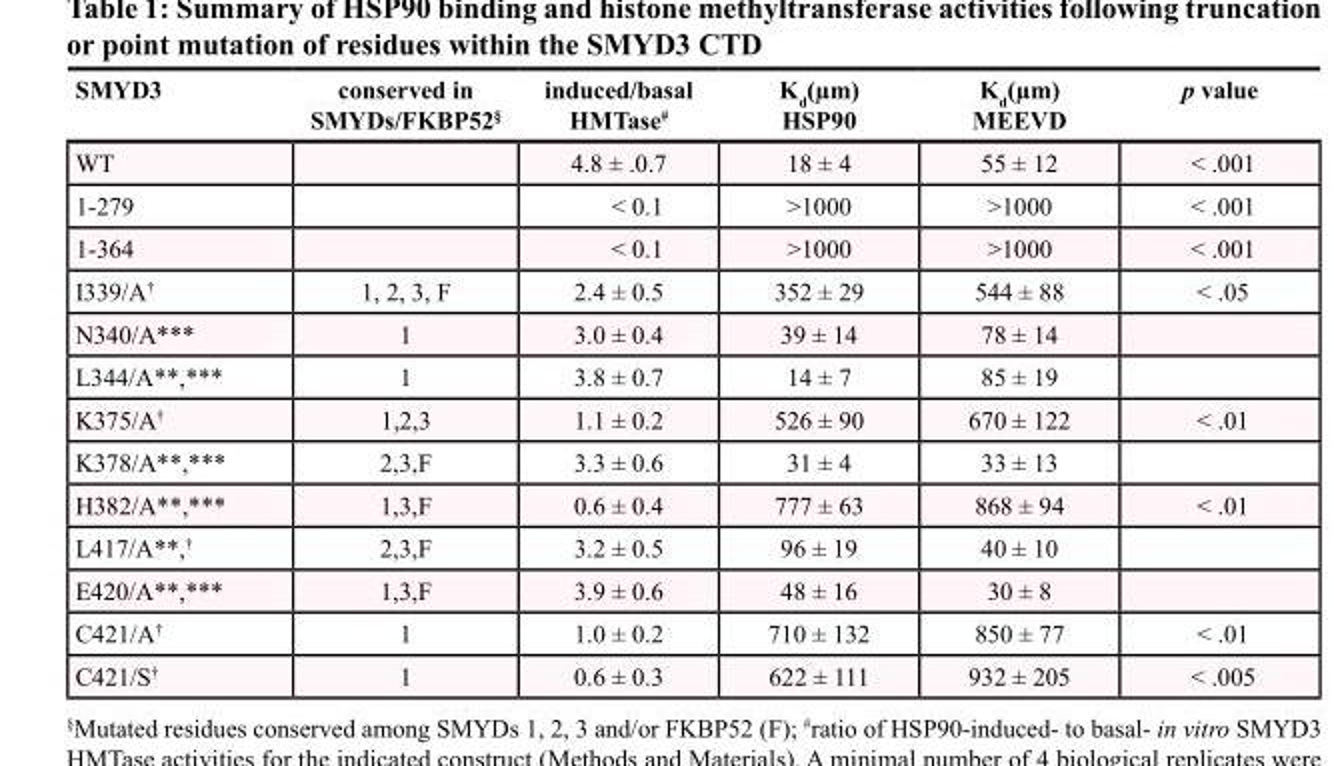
<table><thead><tr><td>SMYD3</td><td>conserved in SMYDs/FKBP52<sup>§</sup></td><td>induced/basal HMTase<sup>#</sup></td><td>K<sub>d</sub>(µm) HSP90</td><td>K<sub>d</sub>(µm) MEEVD</td><td>p value</td></tr></thead><tbody><tr><td>WT</td><td></td><td>4.8 ± .0.7</td><td>18 ± 4</td><td>55 ± 12</td><td>&lt; .001</td></tr><tr><td>1-279</td><td></td><td>&lt; 0.1</td><td>&gt;1000</td><td>&gt;1000</td><td>&lt; .001</td></tr><tr><td>1-364</td><td></td><td>&lt; 0.1</td><td>&gt;1000</td><td>&gt;1000</td><td>&lt; .001</td></tr><tr><td>I339/A<sup>†</sup></td><td>1, 2, 3, F</td><td>2.4 ± 0.5</td><td>352 ± 29</td><td>544 ± 88</td><td>&lt; .05</td></tr><tr><td>N340/A***</td><td>1</td><td>3.0 ± 0.4</td><td>39 ± 14</td><td>78 ± 14</td><td></td></tr><tr><td>L344/A**,***</td><td>1</td><td>3.8 ± 0.7</td><td>14 ± 7</td><td>85 ± 19</td><td></td></tr><tr><td>K375/A<sup>†</sup></td><td>1,2,3</td><td>1.1 ± 0.2</td><td>526 ± 90</td><td>670 ± 122</td><td>&lt; .01</td></tr><tr><td>K378/A**,***</td><td>2,3,F</td><td>3.3 ± 0.6</td><td>31 ± 4</td><td>33 ± 13</td><td></td></tr><tr><td>H382/A**,***</td><td>1,3,F</td><td>0.6 ± 0.4</td><td>777 ± 63</td><td>868 ± 94</td><td>&lt; .01</td></tr><tr><td>L417/A**,<sup>†</sup></td><td>2,3,F</td><td>3.2 ± 0.5</td><td>96 ± 19</td><td>40 ± 10</td><td></td></tr><tr><td>E420/A**,***</td><td>1,3,F</td><td>3.9 ± 0.6</td><td>48 ± 16</td><td>30 ± 8</td><td></td></tr><tr><td>C421/A<sup>†</sup></td><td>1</td><td>1.0 ± 0.2</td><td>710 ± 132</td><td>850 ± 77</td><td>&lt; .01</td></tr><tr><td>C421/S<sup>†</sup></td><td>1</td><td>0.6 ± 0.3</td><td>622 ± 111</td><td>932 ± 205</td><td>&lt; .005</td></tr></tbody></table>